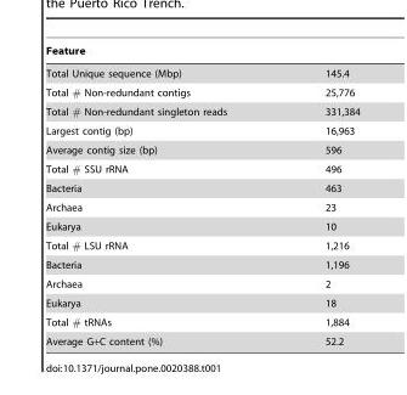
<table><thead><tr><td colspan="2">Feature</td></tr><tr><td>Total Unique sequence (Mbp)</td><td>145.4</td></tr></thead><tbody><tr><td>Total # Non-redundant contigs</td><td>25,776</td></tr><tr><td>Total # Non-redundant singleton reads</td><td>331,384</td></tr><tr><td>Largest contig (bp)</td><td>16,963</td></tr><tr><td>Average contig size (bp)</td><td>596</td></tr><tr><td>Total # SSU rRNA</td><td>496</td></tr><tr><td>Bacteria</td><td>463</td></tr><tr><td>Archaea</td><td>23</td></tr><tr><td>Eukarya</td><td>10</td></tr><tr><td>Total # LSU rRNA</td><td>1,216</td></tr><tr><td>Bacteria</td><td>1,196</td></tr><tr><td>Archaea</td><td>2</td></tr><tr><td>Eukarya</td><td>18</td></tr><tr><td>Total # tRNAs</td><td>1,884</td></tr><tr><td>Average G+C content (%)</td><td>52.2</td></tr></tbody></table>